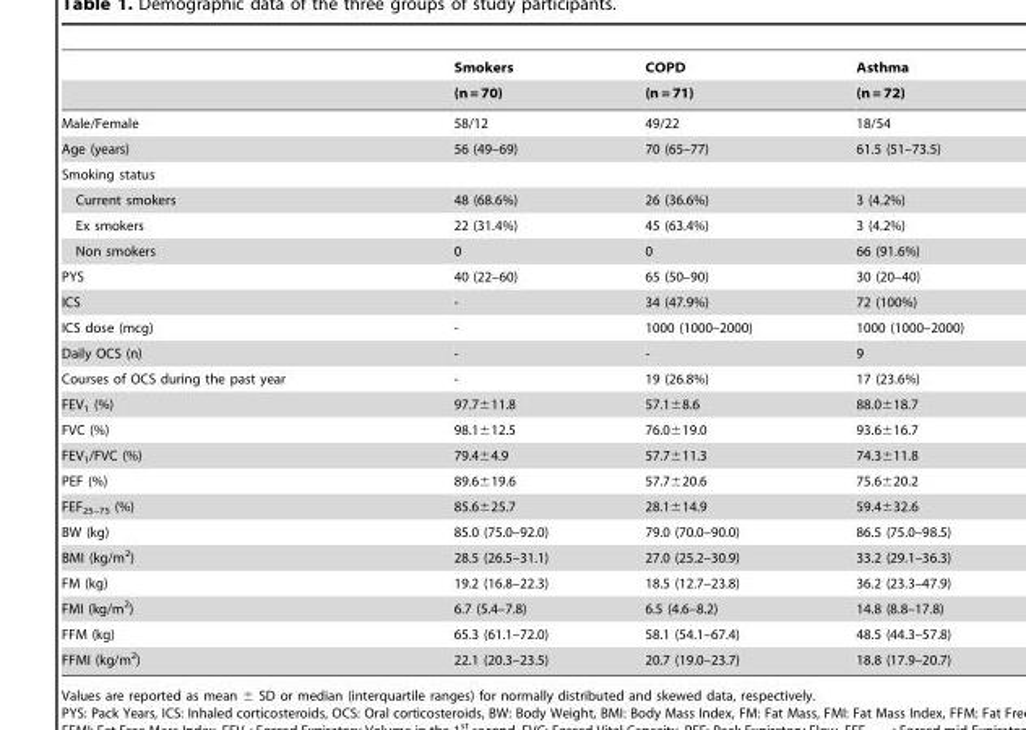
<table><thead><tr><td rowspan="2"></td><td rowspan="2">Smokers (n = 70)</td><td rowspan="2">COPD (n = 71)</td><td rowspan="2">Asthma (n = 72)</td></tr><tr></tr></thead><tbody><tr><td>Male/Female</td><td>58/12</td><td>49/22</td><td>18/54</td></tr><tr><td>Age (years)</td><td>56 (49–69)</td><td>70 (65–77)</td><td>61.5 (51–73.5)</td></tr><tr><td colspan="4">Smoking status</td></tr><tr><td>Current smokers</td><td>48 (68.6%)</td><td>26 (36.6%)</td><td>3 (4.2%)</td></tr><tr><td>Ex smokers</td><td>22 (31.4%)</td><td>45 (63.4%)</td><td>3 (4.2%)</td></tr><tr><td>Non smokers</td><td>0</td><td>0</td><td>66 (91.6%)</td></tr><tr><td>PYS</td><td>40 (22–60)</td><td>65 (50–90)</td><td>30 (20–40)</td></tr><tr><td>ICS</td><td>-</td><td>34 (47.9%)</td><td>72 (100%)</td></tr><tr><td>ICS dose (mcg)</td><td>-</td><td>1000 (1000–2000)</td><td>1000 (1000–2000)</td></tr><tr><td>Daily OCS (n)</td><td>-</td><td>-</td><td>9</td></tr><tr><td>Courses of OCS during the past year</td><td>-</td><td>19 (26.8%)</td><td>17 (23.6%)</td></tr><tr><td>FEV<sub>1</sub> (%)</td><td>97.7±11.8</td><td>57.1±8.6</td><td>88.0±18.7</td></tr><tr><td>FVC (%)</td><td>98.1±12.5</td><td>76.0±19.0</td><td>93.6±16.7</td></tr><tr><td>FEV<sub>1</sub>/FVC (%)</td><td>79.4±4.9</td><td>57.7±11.3</td><td>74.3±11.8</td></tr><tr><td>PEF (%)</td><td>89.6±19.6</td><td>57.7±20.6</td><td>75.6±20.2</td></tr><tr><td>FEF<sub>25–75</sub> (%)</td><td>85.6±25.7</td><td>28.1±14.9</td><td>59.4±32.6</td></tr><tr><td>BW (kg)</td><td>85.0 (75.0–92.0)</td><td>79.0 (70.0–90.0)</td><td>86.5 (75.0–98.5)</td></tr><tr><td>BMI (kg/m<sup>2</sup>)</td><td>28.5 (26.5–31.1)</td><td>27.0 (25.2–30.9)</td><td>33.2 (29.1–36.3)</td></tr><tr><td>FM (kg)</td><td>19.2 (16.8–22.3)</td><td>18.5 (12.7–23.8)</td><td>36.2 (23.3–47.9)</td></tr><tr><td>FMI (kg/m<sup>2</sup>)</td><td>6.7 (5.4–7.8)</td><td>6.5 (4.6–8.2)</td><td>14.8 (8.8–17.8)</td></tr><tr><td>FFM (kg)</td><td>65.3 (61.1–72.0)</td><td>58.1 (54.1–67.4)</td><td>48.5 (44.3–57.8)</td></tr><tr><td>FFMI (kg/m<sup>2</sup>)</td><td>22.1 (20.3–23.5)</td><td>20.7 (19.0–23.7)</td><td>18.8 (17.9–20.7)</td></tr></tbody></table>